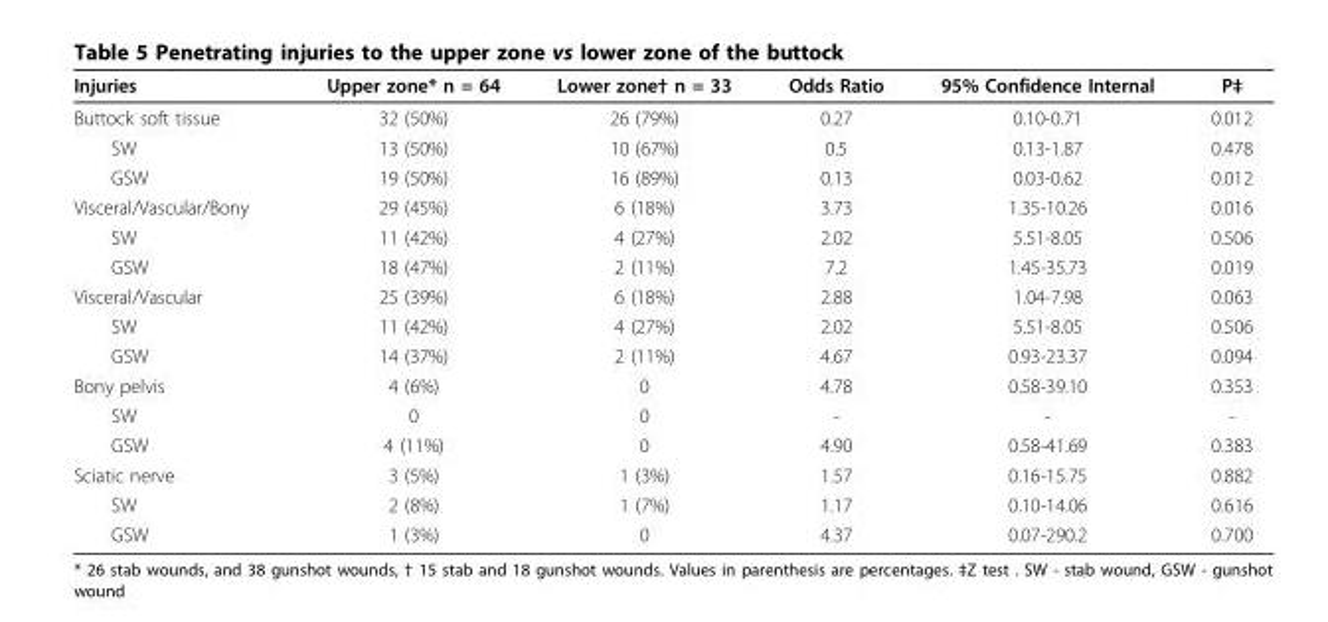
<table><thead><tr><td>Injuries</td><td>Upper zone* n = 64</td><td>Lower zone† n = 33</td><td>Odds Ratio</td><td>95% Confidence Internal</td><td>P‡</td></tr></thead><tbody><tr><td>Buttock soft tissue</td><td>32 (50%)</td><td>26 (79%)</td><td>0.27</td><td>0.10-0.71</td><td>0.012</td></tr><tr><td>SW</td><td>13 (50%)</td><td>10 (67%)</td><td>0.5</td><td>0.13-1.87</td><td>0.478</td></tr><tr><td>GSW</td><td>19 (50%)</td><td>16 (89%)</td><td>0.13</td><td>0.03-0.62</td><td>0.012</td></tr><tr><td>Visceral/Vascular/Bony</td><td>29 (45%)</td><td>6 (18%)</td><td>3.73</td><td>1.35-10.26</td><td>0.016</td></tr><tr><td>SW</td><td>11 (42%)</td><td>4 (27%)</td><td>2.02</td><td>5.51-8.05</td><td>0.506</td></tr><tr><td>GSW</td><td>18 (47%)</td><td>2 (11%)</td><td>7.2</td><td>1.45-35.73</td><td>0.019</td></tr><tr><td>Visceral/Vascular</td><td>25 (39%)</td><td>6 (18%)</td><td>2.88</td><td>1.04-7.98</td><td>0.063</td></tr><tr><td>SW</td><td>11 (42%)</td><td>4 (27%)</td><td>2.02</td><td>5.51-8.05</td><td>0.506</td></tr><tr><td>GSW</td><td>14 (37%)</td><td>2 (11%)</td><td>4.67</td><td>0.93-23.37</td><td>0.094</td></tr><tr><td>Bony pelvis</td><td>4 (6%)</td><td>0</td><td>4.78</td><td>0.58-39.10</td><td>0.353</td></tr><tr><td>SW</td><td>0</td><td>0</td><td>-</td><td>-</td><td>-</td></tr><tr><td>GSW</td><td>4 (11%)</td><td>0</td><td>4.90</td><td>0.58-41.69</td><td>0.383</td></tr><tr><td>Sciatic nerve</td><td>3 (5%)</td><td>1 (3%)</td><td>1.57</td><td>0.16-15.75</td><td>0.882</td></tr><tr><td>SW</td><td>2 (8%)</td><td>1 (7%)</td><td>1.17</td><td>0.10-14.06</td><td>0.616</td></tr><tr><td>GSW</td><td>1 (3%)</td><td>0</td><td>4.37</td><td>0.07-290.2</td><td>0.700</td></tr></tbody></table>